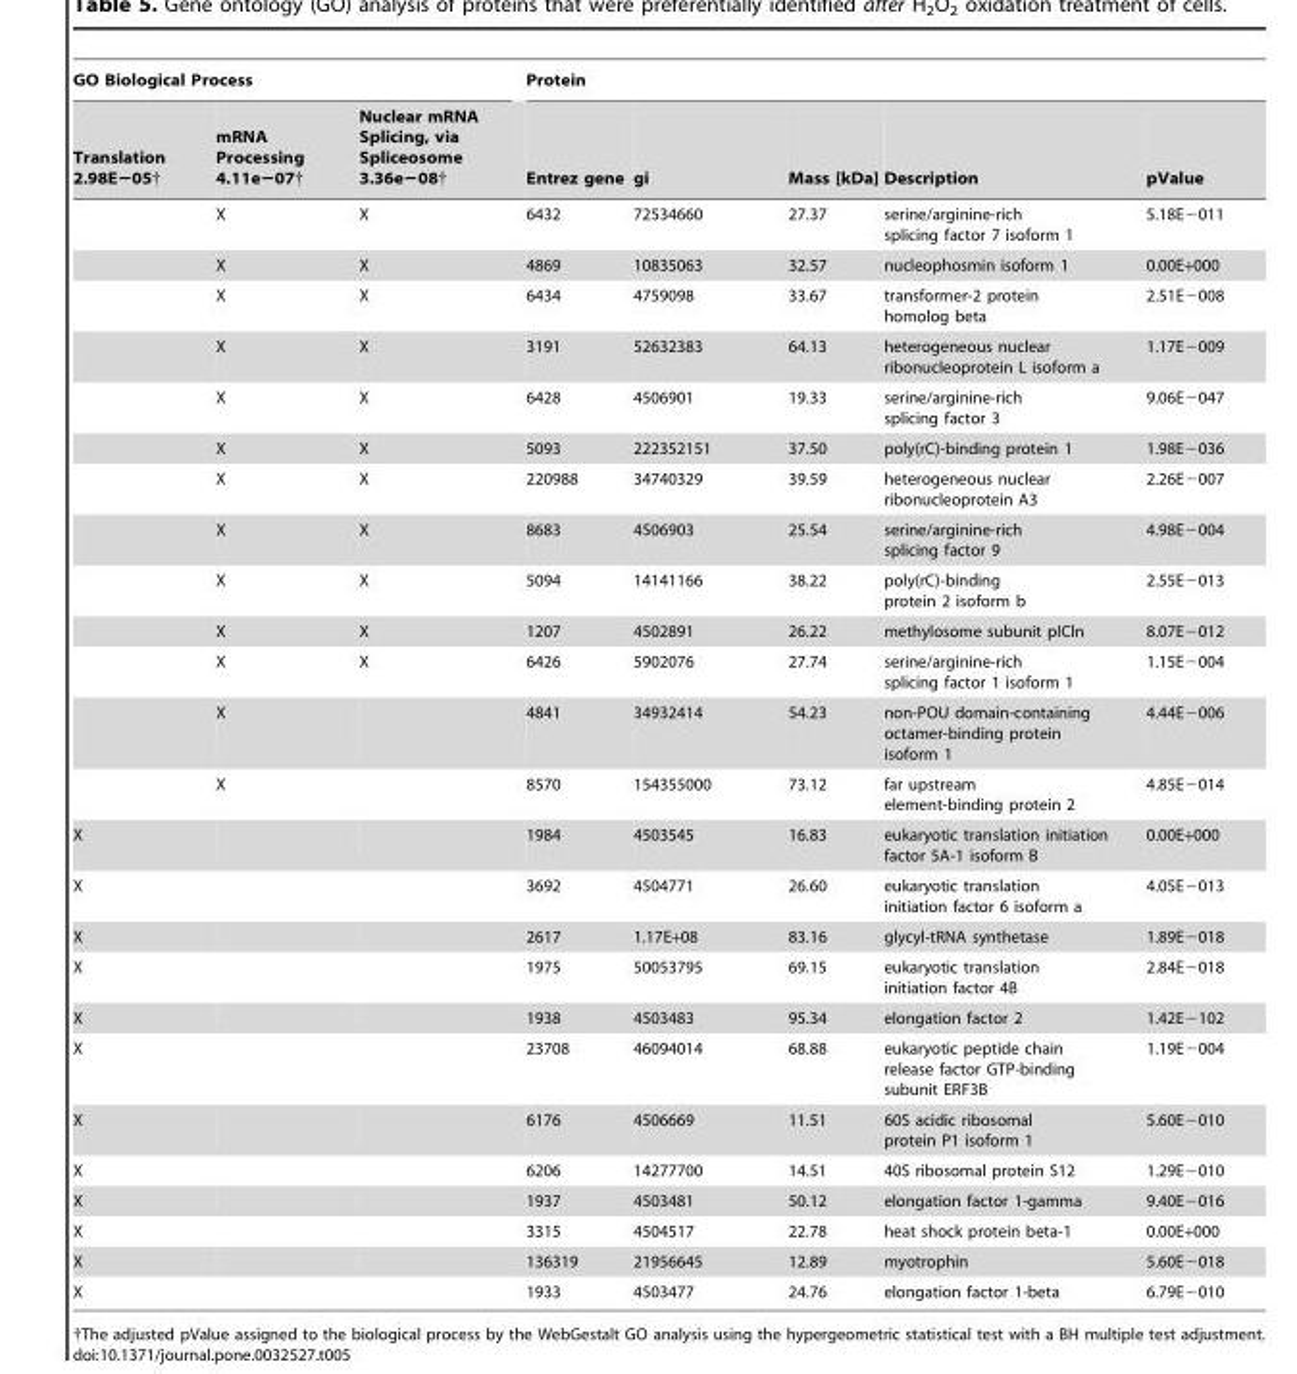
<table><thead><tr><td colspan="3">GO Biological Process</td><td colspan="5">Protein</td></tr><tr><td>Translation 2.98E−05†</td><td>mRNA Processing 4.11e−07†</td><td>Nuclear mRNA Splicing, via Spliceosome 3.36e−08†</td><td>Entrez gene</td><td>gi</td><td>Mass [kDa]</td><td>Description</td><td>pValue</td></tr></thead><tbody><tr><td></td><td>X</td><td>X</td><td>6432</td><td>72534660</td><td>27.37</td><td>serine/arginine-rich splicing factor 7 isoform 1</td><td>5.18E−011</td></tr><tr><td></td><td>X</td><td>X</td><td>4869</td><td>10835063</td><td>32.57</td><td>nucleophosmin isoform 1</td><td>0.00E+000</td></tr><tr><td></td><td>X</td><td>X</td><td>6434</td><td>4759098</td><td>33.67</td><td>transformer-2 protein homolog beta</td><td>2.51E−008</td></tr><tr><td></td><td>X</td><td>X</td><td>3191</td><td>52632383</td><td>64.13</td><td>heterogeneous nuclear ribonucleoprotein L isoform a</td><td>1.17E−009</td></tr><tr><td></td><td>X</td><td>X</td><td>6428</td><td>4506901</td><td>19.33</td><td>serine/arginine-rich splicing factor 3</td><td>9.06E−047</td></tr><tr><td></td><td>X</td><td>X</td><td>5093</td><td>222352151</td><td>37.50</td><td>poly(rC)-binding protein 1</td><td>1.98E−036</td></tr><tr><td></td><td>X</td><td>X</td><td>220988</td><td>34740329</td><td>39.59</td><td>heterogeneous nuclear ribonucleoprotein A3</td><td>2.26E−007</td></tr><tr><td></td><td>X</td><td>X</td><td>8683</td><td>4506903</td><td>25.54</td><td>serine/arginine-rich splicing factor 9</td><td>4.98E−004</td></tr><tr><td></td><td>X</td><td>X</td><td>5094</td><td>14141166</td><td>38.22</td><td>poly(rC)-binding protein 2 isoform b</td><td>2.55E−013</td></tr><tr><td></td><td>X</td><td>X</td><td>1207</td><td>4502891</td><td>26.22</td><td>methylosome subunit pICln</td><td>8.07E−012</td></tr><tr><td></td><td>X</td><td>X</td><td>6426</td><td>5902076</td><td>27.74</td><td>serine/arginine-rich splicing factor 1 isoform 1</td><td>1.15E−004</td></tr><tr><td></td><td>X</td><td></td><td>4841</td><td>34932414</td><td>54.23</td><td>non-POU domain-containing octamer-binding protein isoform 1</td><td>4.44E−006</td></tr><tr><td></td><td>X</td><td></td><td>8570</td><td>154355000</td><td>73.12</td><td>far upstream element-binding protein 2</td><td>4.85E−014</td></tr><tr><td>X</td><td></td><td></td><td>1984</td><td>4503545</td><td>16.83</td><td>eukaryotic translation initiation factor 5A-1 isoform B</td><td>0.00E+000</td></tr><tr><td>X</td><td></td><td></td><td>3692</td><td>4504771</td><td>26.60</td><td>eukaryotic translation initiation factor 6 isoform a</td><td>4.05E−013</td></tr><tr><td>X</td><td></td><td></td><td>2617</td><td>1.17E+08</td><td>83.16</td><td>glycyl-tRNA synthetase</td><td>1.89E−018</td></tr><tr><td>X</td><td></td><td></td><td>1975</td><td>50053795</td><td>69.15</td><td>eukaryotic translation initiation factor 4B</td><td>2.84E−018</td></tr><tr><td>X</td><td></td><td></td><td>1938</td><td>4503483</td><td>95.34</td><td>elongation factor 2</td><td>1.42E−102</td></tr><tr><td>X</td><td></td><td></td><td>23708</td><td>46094014</td><td>68.88</td><td>eukaryotic peptide chain release factor GTP-binding subunit ERF3B</td><td>1.19E−004</td></tr><tr><td>X</td><td></td><td></td><td>6176</td><td>4506669</td><td>11.51</td><td>60S acidic ribosomal protein P1 isoform 1</td><td>5.60E−010</td></tr><tr><td>X</td><td></td><td></td><td>6206</td><td>14277700</td><td>14.51</td><td>40S ribosomal protein S12</td><td>1.29E−010</td></tr><tr><td>X</td><td></td><td></td><td>1937</td><td>4503481</td><td>50.12</td><td>elongation factor 1-gamma</td><td>9.40E−016</td></tr><tr><td>X</td><td></td><td></td><td>3315</td><td>4504517</td><td>22.78</td><td>heat shock protein beta-1</td><td>0.00E+000</td></tr><tr><td>X</td><td></td><td></td><td>136319</td><td>21956645</td><td>12.89</td><td>myotrophin</td><td>5.60E−018</td></tr><tr><td>X</td><td></td><td></td><td>1933</td><td>4503477</td><td>24.76</td><td>elongation factor 1-beta</td><td>6.79E−010</td></tr></tbody></table>